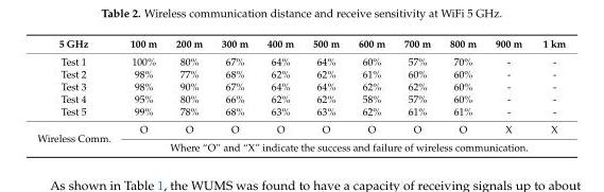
<table><thead><tr><td>5 GHz</td><td>100 m</td><td>200 m</td><td>300 m</td><td>400 m</td><td>500 m</td><td>600 m</td><td>700 m</td><td>800 m</td><td>900 m</td><td>1 km</td></tr></thead><tbody><tr><td>Test 1</td><td>100%</td><td>80%</td><td>67%</td><td>64%</td><td>64%</td><td>60%</td><td>57%</td><td>70%</td><td>-</td><td>-</td></tr><tr><td>Test 2</td><td>98%</td><td>77%</td><td>68%</td><td>62%</td><td>62%</td><td>61%</td><td>60%</td><td>60%</td><td>-</td><td>-</td></tr><tr><td>Test 3</td><td>98%</td><td>90%</td><td>67%</td><td>64%</td><td>64%</td><td>62%</td><td>62%</td><td>60%</td><td>-</td><td>-</td></tr><tr><td>Test 4</td><td>95%</td><td>80%</td><td>66%</td><td>62%</td><td>62%</td><td>58%</td><td>57%</td><td>60%</td><td>-</td><td>-</td></tr><tr><td>Test 5</td><td>99%</td><td>78%</td><td>68%</td><td>63%</td><td>63%</td><td>62%</td><td>61%</td><td>61%</td><td>-</td><td>-</td></tr><tr><td rowspan="2">Wireless Comm.</td><td>O</td><td>O</td><td>O</td><td>O</td><td>O</td><td>O</td><td>O</td><td>O</td><td>X</td><td>X</td></tr><tr><td colspan="10">Where “O” and “X” indicate the success and failure of wireless communication.</td></tr></tbody></table>